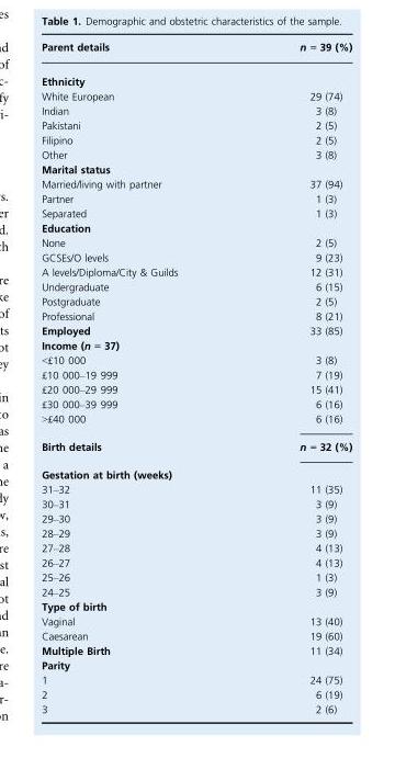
<table><thead><tr><td>Parent details</td><td>n = 39 (%)</td></tr></thead><tbody><tr><td colspan="2">Ethnicity</td></tr><tr><td>White European</td><td>29 (74)</td></tr><tr><td>Indian</td><td>3 (8)</td></tr><tr><td>Pakistani</td><td>2 (5)</td></tr><tr><td>Filipino</td><td>2 (5)</td></tr><tr><td>Other</td><td>3 (8)</td></tr><tr><td colspan="2">Marital status</td></tr><tr><td>Married/living with partner</td><td>37 (94)</td></tr><tr><td>Partner</td><td>1 (3)</td></tr><tr><td>Separated</td><td>1 (3)</td></tr><tr><td colspan="2">Education</td></tr><tr><td>None</td><td>2 (5)</td></tr><tr><td>GCSEs/O levels</td><td>9 (23)</td></tr><tr><td>A levels/Diploma/City &amp; Guilds</td><td>12 (31)</td></tr><tr><td>Undergraduate</td><td>6 (15)</td></tr><tr><td>Postgraduate</td><td>2 (5)</td></tr><tr><td>Professional</td><td>8 (21)</td></tr><tr><td>Employed</td><td>33 (85)</td></tr><tr><td colspan="2">Income (n = 37)</td></tr><tr><td>&lt;£10 000</td><td>3 (8)</td></tr><tr><td>£10 000–19 999</td><td>7 (19)</td></tr><tr><td>£20 000–29 999</td><td>15 (41)</td></tr><tr><td>£30 000–39 999</td><td>6 (16)</td></tr><tr><td>&gt;£40 000</td><td>6 (16)</td></tr><tr><td>Birth details</td><td>n = 32 (%)</td></tr><tr><td colspan="2">Gestation at birth (weeks)</td></tr><tr><td>31–32</td><td>11 (35)</td></tr><tr><td>30–31</td><td>3 (9)</td></tr><tr><td>29–30</td><td>3 (9)</td></tr><tr><td>28–29</td><td>3 (9)</td></tr><tr><td>27–28</td><td>4 (13)</td></tr><tr><td>26–27</td><td>4 (13)</td></tr><tr><td>25–26</td><td>1 (3)</td></tr><tr><td>24–25</td><td>3 (9)</td></tr><tr><td colspan="2">Type of birth</td></tr><tr><td>Vaginal</td><td>13 (40)</td></tr><tr><td>Caesarean</td><td>19 (60)</td></tr><tr><td>Multiple Birth</td><td>11 (34)</td></tr><tr><td colspan="2">Parity</td></tr><tr><td>1</td><td>24 (75)</td></tr><tr><td>2</td><td>6 (19)</td></tr><tr><td>3</td><td>2 (6)</td></tr></tbody></table>